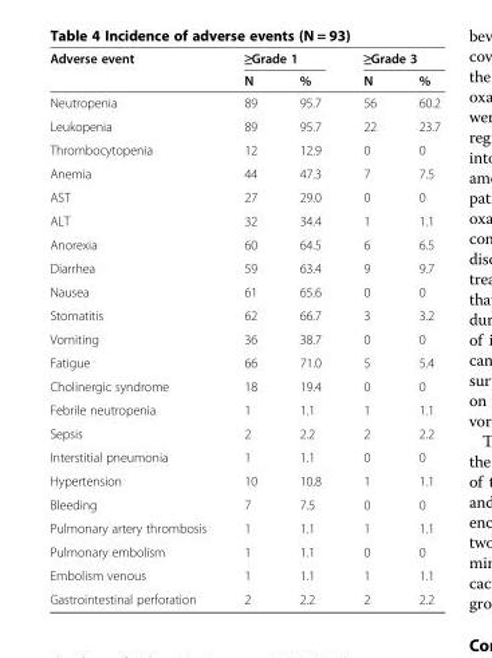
<table><thead><tr><td rowspan="2">Adverse event</td><td colspan="2">≥Grade 1</td><td colspan="2">≥Grade 3</td></tr><tr><td>N</td><td>%</td><td>N</td><td>%</td></tr></thead><tbody><tr><td>Neutropenia</td><td>89</td><td>95.7</td><td>56</td><td>60.2</td></tr><tr><td>Leukopenia</td><td>89</td><td>95.7</td><td>22</td><td>23.7</td></tr><tr><td>Thrombocytopenia</td><td>12</td><td>12.9</td><td>0</td><td>0</td></tr><tr><td>Anemia</td><td>44</td><td>47.3</td><td>7</td><td>7.5</td></tr><tr><td>AST</td><td>27</td><td>29.0</td><td>0</td><td>0</td></tr><tr><td>ALT</td><td>32</td><td>34.4</td><td>1</td><td>1.1</td></tr><tr><td>Anorexia</td><td>60</td><td>64.5</td><td>6</td><td>6.5</td></tr><tr><td>Diarrhea</td><td>59</td><td>63.4</td><td>9</td><td>9.7</td></tr><tr><td>Nausea</td><td>61</td><td>65.6</td><td>0</td><td>0</td></tr><tr><td>Stomatitis</td><td>62</td><td>66.7</td><td>3</td><td>3.2</td></tr><tr><td>Vomiting</td><td>36</td><td>38.7</td><td>0</td><td>0</td></tr><tr><td>Fatigue</td><td>66</td><td>71.0</td><td>5</td><td>5.4</td></tr><tr><td>Cholinergic syndrome</td><td>18</td><td>19.4</td><td>0</td><td>0</td></tr><tr><td>Febrile neutropenia</td><td>1</td><td>1.1</td><td>1</td><td>1.1</td></tr><tr><td>Sepsis</td><td>2</td><td>2.2</td><td>2</td><td>2.2</td></tr><tr><td>Interstitial pneumonia</td><td>1</td><td>1.1</td><td>0</td><td>0</td></tr><tr><td>Hypertension</td><td>10</td><td>10.8</td><td>1</td><td>1.1</td></tr><tr><td>Bleeding</td><td>7</td><td>7.5</td><td>0</td><td>0</td></tr><tr><td>Pulmonary artery thrombosis</td><td>1</td><td>1.1</td><td>1</td><td>1.1</td></tr><tr><td>Pulmonary embolism</td><td>1</td><td>1.1</td><td>0</td><td>0</td></tr><tr><td>Embolism venous</td><td>1</td><td>1.1</td><td>1</td><td>1.1</td></tr><tr><td>Gastrointestinal perforation</td><td>2</td><td>2.2</td><td>2</td><td>2.2</td></tr></tbody></table>